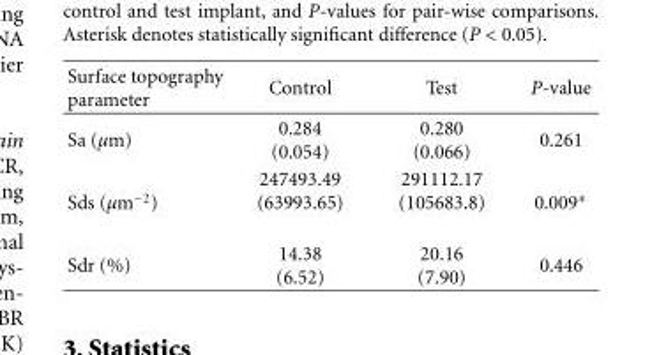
<table><thead><tr><td>Surface topography parameter</td><td>Control</td><td>Test</td><td>P-value</td></tr></thead><tbody><tr><td>Sa (μm)</td><td>0.284 (0.054)</td><td>0.280 (0.066)</td><td>0.261</td></tr><tr><td>Sds (μm<sup>−2</sup>)</td><td>247493.49 (63993.65)</td><td>291112.17 (105683.8)</td><td>0.009∗</td></tr><tr><td>Sdr (%)</td><td>14.38 (6.52)</td><td>20.16 (7.90)</td><td>0.446</td></tr></tbody></table>